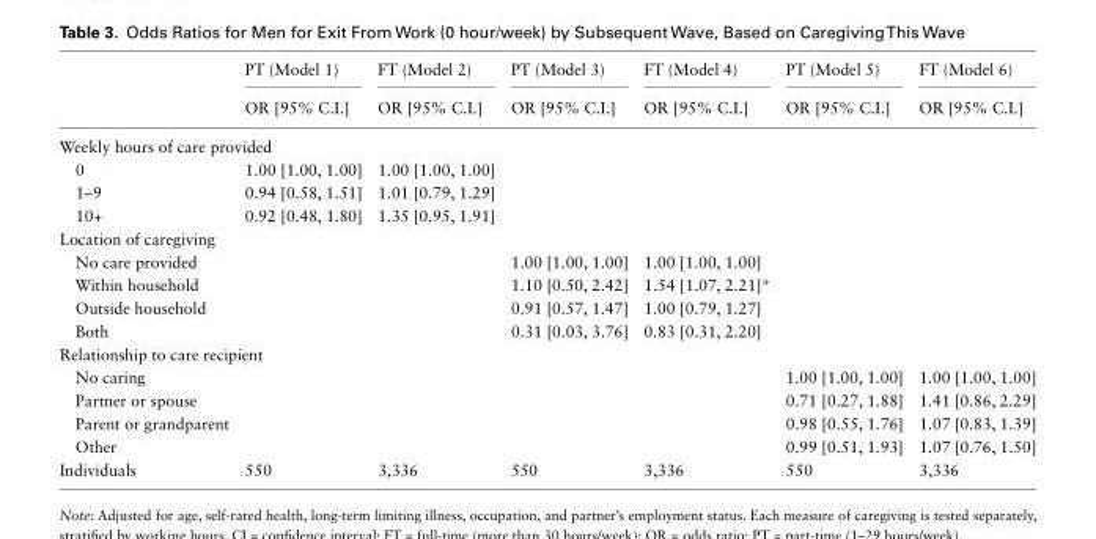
<table><thead><tr><td rowspan="2"></td><td rowspan="2">PT (Model 1) OR [95% C.I.]</td><td rowspan="2">FT (Model 2) OR [95% C.I.]</td><td rowspan="2">PT (Model 3) OR [95% C.I.]</td><td rowspan="2">FT (Model 4) OR [95% C.I.]</td><td rowspan="2">PT (Model 5) OR [95% C.I.]</td><td rowspan="2">FT (Model 6) OR [95% C.I.]</td></tr><tr></tr></thead><tbody><tr><td colspan="7">Weekly hours of care provided</td></tr><tr><td>0</td><td>1.00 [1.00, 1.00]</td><td>1.00 [1.00, 1.00]</td><td></td><td></td><td></td><td></td></tr><tr><td>1–9</td><td>0.94 [0.58, 1.51]</td><td>1.01 [0.79, 1.29]</td><td></td><td></td><td></td><td></td></tr><tr><td>10+</td><td>0.92 [0.48, 1.80]</td><td>1.35 [0.95, 1.91]</td><td></td><td></td><td></td><td></td></tr><tr><td colspan="7">Location of caregiving</td></tr><tr><td>No care provided</td><td></td><td></td><td>1.00 [1.00, 1.00]</td><td>1.00 [1.00, 1.00]</td><td></td><td></td></tr><tr><td>Within household</td><td></td><td></td><td>1.10 [0.50, 2.42]</td><td>1.54 [1.07, 2.21]*</td><td></td><td></td></tr><tr><td>Outside household</td><td></td><td></td><td>0.91 [0.57, 1.47]</td><td>1.00 [0.79, 1.27]</td><td></td><td></td></tr><tr><td>Both</td><td></td><td></td><td>0.31 [0.03, 3.76]</td><td>0.83 [0.31, 2.20]</td><td></td><td></td></tr><tr><td colspan="7">Relationship to care recipient</td></tr><tr><td>No caring</td><td></td><td></td><td></td><td></td><td>1.00 [1.00, 1.00]</td><td>1.00 [1.00, 1.00]</td></tr><tr><td>Partner or spouse</td><td></td><td></td><td></td><td></td><td>0.71 [0.27, 1.88]</td><td>1.41 [0.86, 2.29]</td></tr><tr><td>Parent or grandparent</td><td></td><td></td><td></td><td></td><td>0.98 [0.55, 1.76]</td><td>1.07 [0.83, 1.39]</td></tr><tr><td>Other</td><td></td><td></td><td></td><td></td><td>0.99 [0.51, 1.93]</td><td>1.07 [0.76, 1.50]</td></tr><tr><td>Individuals</td><td>550</td><td>3,336</td><td>550</td><td>3,336</td><td>550</td><td>3,336</td></tr></tbody></table>